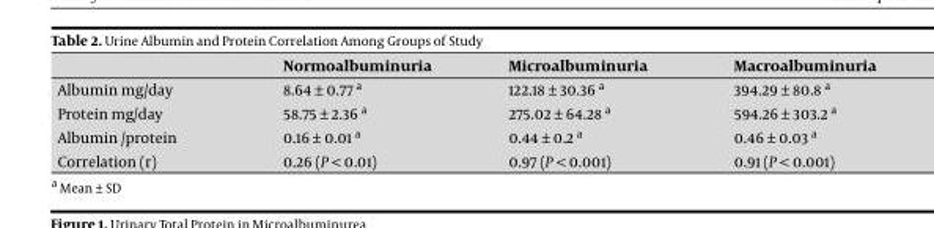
<table><thead><tr><td></td><td>Normoalbuminuria</td><td>Microalbuminuria</td><td>Macroalbuminuria</td></tr></thead><tbody><tr><td>Albumin mg/day</td><td>8.64 ± 0.77 a</td><td>122.18 ± 30.36 a</td><td>394.29 ± 80.8 a</td></tr><tr><td>Protein mg/day</td><td>58.75 ± 2.36 a</td><td>275.02 ± 64.28 a</td><td>594.26 ± 303.2 a</td></tr><tr><td>Albumin /protein</td><td>0.16 ± 0.01 a</td><td>0.44 ± 0.2 a</td><td>0.46 ± 0.03 a</td></tr><tr><td>Correlation (r)</td><td>0.26 (P &lt; 0.01)</td><td>0.97 (P &lt; 0.001)</td><td>0.91 (P &lt; 0.001)</td></tr></tbody></table>